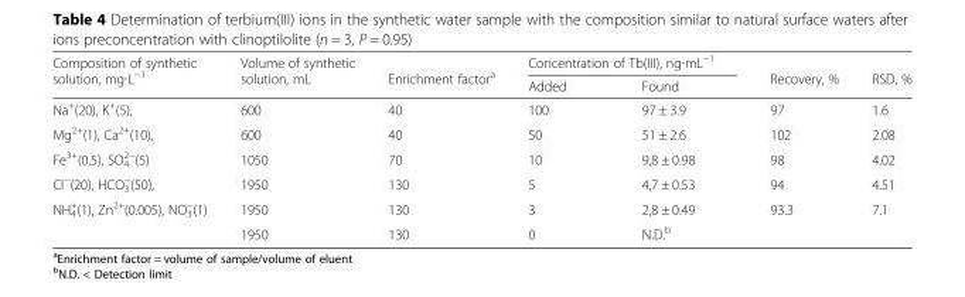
<table><thead><tr><td rowspan="2">Composition of synthetic solution, mg∙L<sup>−1</sup></td><td rowspan="2">Volume of synthetic solution, mL</td><td rowspan="2">Enrichment factor<sup>a</sup></td><td colspan="2">Concentration of Tb(III), ng∙mL<sup>−1</sup></td><td rowspan="2">Recovery, %</td><td rowspan="2">RSD, %</td></tr><tr><td>Added</td><td>Found</td></tr></thead><tbody><tr><td>Na<sup>+</sup>(20), K<sup>+</sup>(5),</td><td>600</td><td>40</td><td>100</td><td>97 ± 3.9</td><td>97</td><td>1.6</td></tr><tr><td>Mg<sup>2+</sup>(1), Ca<sup>2+</sup>(10),</td><td>600</td><td>40</td><td>50</td><td>51 ± 2.6</td><td>102</td><td>2.08</td></tr><tr><td>Fe<sup>3+</sup>(0.5), SO<sub>4</sub> <sup>2−</sup>(5)</td><td>1050</td><td>70</td><td>10</td><td>9,8 ± 0.98</td><td>98</td><td>4.02</td></tr><tr><td>Cl<sup>−</sup>(20), HCO<sub>3</sub> <sup>−</sup>(50),</td><td>1950</td><td>130</td><td>5</td><td>4,7 ± 0.53</td><td>94</td><td>4.51</td></tr><tr><td rowspan="2">NH<sub>4</sub> <sup>+</sup>(1), Zn<sup>2+</sup>(0.005), NO<sub>3</sub> <sup>−</sup>(1)</td><td>1950</td><td>130</td><td>3</td><td>2,8 ± 0.49</td><td rowspan="2">93.3</td><td rowspan="2">7.1</td></tr><tr><td>1950</td><td>130</td><td>0</td><td>N.D.<sup>b</sup></td></tr></tbody></table>